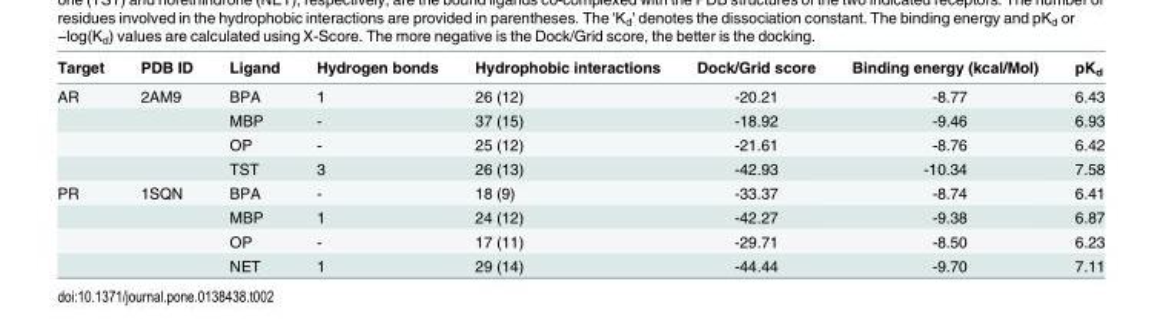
<table><thead><tr><td>Target</td><td>PDB ID</td><td>Ligand</td><td>Hydrogen bonds</td><td>Hydrophobic interactions</td><td>Dock/Grid score</td><td>Binding energy (kcal/Mol)</td><td>pK<sub>d</sub></td></tr></thead><tbody><tr><td rowspan="4">AR</td><td>2AM9</td><td>BPA</td><td>1</td><td>26 (12)</td><td>-20.21</td><td>-8.77</td><td>6.43</td></tr><tr><td></td><td>MBP</td><td>-</td><td>37 (15)</td><td>-18.92</td><td>-9.46</td><td>6.93</td></tr><tr><td></td><td>OP</td><td>-</td><td>25 (12)</td><td>-21.61</td><td>-8.76</td><td>6.42</td></tr><tr><td></td><td>TST</td><td>3</td><td>26 (13)</td><td>-42.93</td><td>-10.34</td><td>7.58</td></tr><tr><td rowspan="4">PR</td><td>1SQN</td><td>BPA</td><td>-</td><td>18 (9)</td><td>-33.37</td><td>-8.74</td><td>6.41</td></tr><tr><td></td><td>MBP</td><td>1</td><td>24 (12)</td><td>-42.27</td><td>-9.38</td><td>6.87</td></tr><tr><td></td><td>OP</td><td>-</td><td>17 (11)</td><td>-29.71</td><td>-8.50</td><td>6.23</td></tr><tr><td></td><td>NET</td><td>1</td><td>29 (14)</td><td>-44.44</td><td>-9.70</td><td>7.11</td></tr></tbody></table>